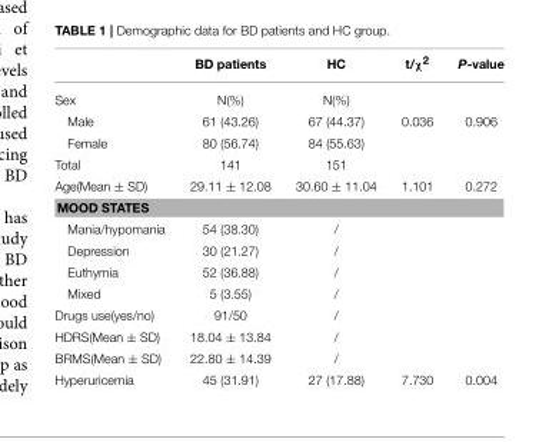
<table><thead><tr><td></td><td>BD patients</td><td>HC</td><td>t/χ<sup>2</sup></td><td>P-value</td></tr></thead><tbody><tr><td>Sex</td><td>N(%)</td><td>N(%)</td><td></td><td></td></tr><tr><td>Male</td><td>61 (43.26)</td><td>67 (44.37)</td><td>0.036</td><td>0.906</td></tr><tr><td>Female</td><td>80 (56.74)</td><td>84 (55.63)</td><td></td><td></td></tr><tr><td>Total</td><td>141</td><td>151</td><td></td><td></td></tr><tr><td>Age(Mean ± SD)</td><td>29.11 ± 12.08</td><td>30.60 ± 11.04</td><td>1.101</td><td>0.272</td></tr><tr><td colspan="5">MOOD STATES</td></tr><tr><td>Mania/hypomania</td><td>54 (38.30)</td><td>/</td><td></td><td></td></tr><tr><td>Depression</td><td>30 (21.27)</td><td>/</td><td></td><td></td></tr><tr><td>Euthymia</td><td>52 (36.88)</td><td>/</td><td></td><td></td></tr><tr><td>Mixed</td><td>5 (3.55)</td><td>/</td><td></td><td></td></tr><tr><td>Drugs use(yes/no)</td><td>91/50</td><td>/</td><td></td><td></td></tr><tr><td>HDRS(Mean ± SD)</td><td>18.04 ± 13.84</td><td>/</td><td></td><td></td></tr><tr><td>BRMS(Mean ± SD)</td><td>22.80 ± 14.39</td><td>/</td><td></td><td></td></tr><tr><td>Hyperuricemia</td><td>45 (31.91)</td><td>27 (17.88)</td><td>7.730</td><td>0.004</td></tr></tbody></table>